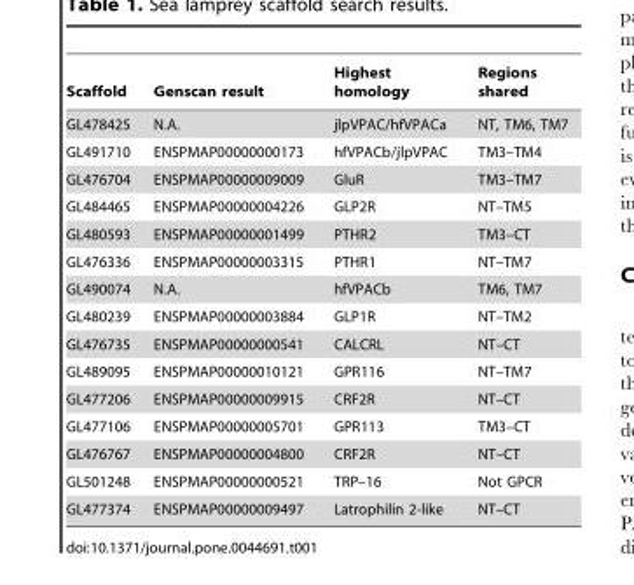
<table><thead><tr><td>Scaffold</td><td>Genscan result</td><td>Highest homology</td><td>Regions shared</td></tr></thead><tbody><tr><td>GL478425</td><td>N.A.</td><td>jlpVPAC/hfVPACa</td><td>NT, TM6, TM7</td></tr><tr><td>GL491710</td><td>ENSPMAP00000000173</td><td>hfVPACb/jlpVPAC</td><td>TM3–TM4</td></tr><tr><td>GL476704</td><td>ENSPMAP00000009009</td><td>GluR</td><td>TM3–TM7</td></tr><tr><td>GL484465</td><td>ENSPMAP00000004226</td><td>GLP2R</td><td>NT–TM5</td></tr><tr><td>GL480593</td><td>ENSPMAP00000001499</td><td>PTHR2</td><td>TM3–CT</td></tr><tr><td>GL476336</td><td>ENSPMAP00000003315</td><td>PTHR1</td><td>NT–TM7</td></tr><tr><td>GL490074</td><td>N.A.</td><td>hfVPACb</td><td>TM6, TM7</td></tr><tr><td>GL480239</td><td>ENSPMAP00000003884</td><td>GLP1R</td><td>NT–TM2</td></tr><tr><td>GL476735</td><td>ENSPMAP00000000541</td><td>CALCRL</td><td>NT–CT</td></tr><tr><td>GL489095</td><td>ENSPMAP00000010121</td><td>GPR116</td><td>NT–TM7</td></tr><tr><td>GL477206</td><td>ENSPMAP00000009915</td><td>CRF2R</td><td>NT–CT</td></tr><tr><td>GL477106</td><td>ENSPMAP00000005701</td><td>GPR113</td><td>TM3–CT</td></tr><tr><td>GL476767</td><td>ENSPMAP00000004800</td><td>CRF2R</td><td>NT–CT</td></tr><tr><td>GL501248</td><td>ENSPMAP00000000521</td><td>TRP–16</td><td>Not GPCR</td></tr><tr><td>GL477374</td><td>ENSPMAP00000009497</td><td>Latrophilin 2-like</td><td>NT–CT</td></tr></tbody></table>